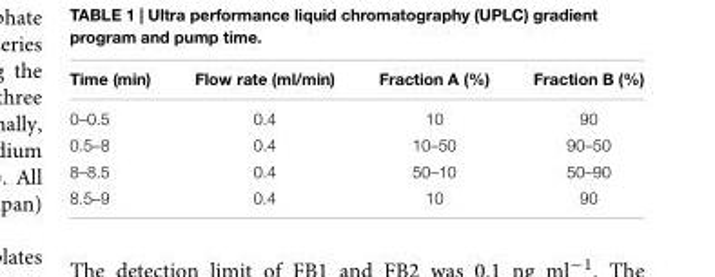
<table><thead><tr><td>Time (min)</td><td>Flow rate (ml/min)</td><td>Fraction A (%)</td><td>Fraction B (%)</td></tr></thead><tbody><tr><td>0–0.5</td><td>0.4</td><td>10</td><td>90</td></tr><tr><td>0.5–8</td><td>0.4</td><td>10–50</td><td>90–50</td></tr><tr><td>8–8.5</td><td>0.4</td><td>50–10</td><td>50–90</td></tr><tr><td>8.5–9</td><td>0.4</td><td>10</td><td>90</td></tr></tbody></table>